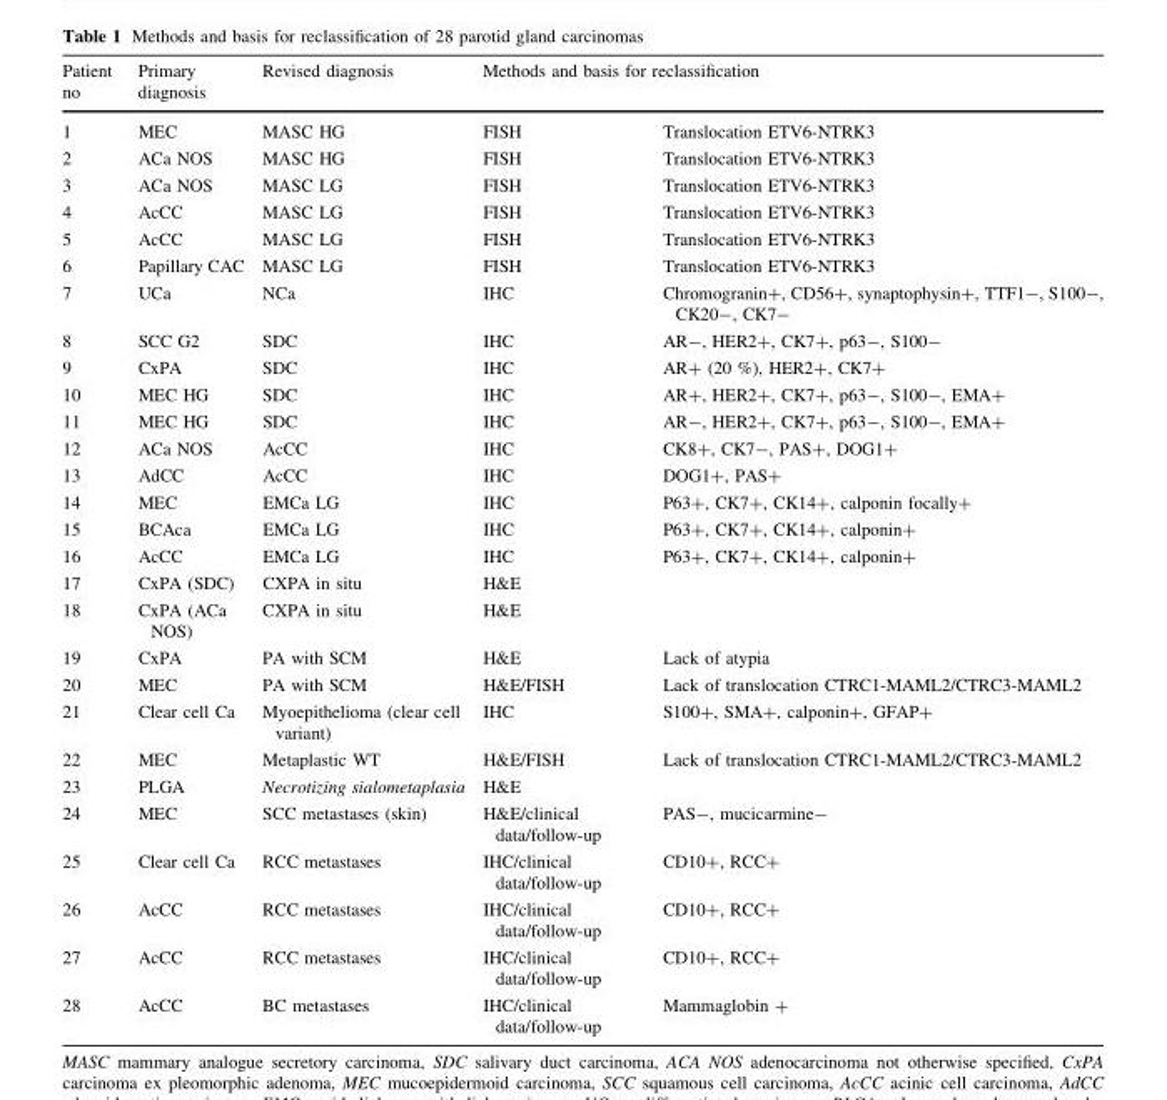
<table><thead><tr><td rowspan="2">Patient no 1</td><td rowspan="2">Primary diagnosis MEC</td><td rowspan="2">Revised diagnosis MASC HG</td><td colspan="2">Methods and basis for reclassification</td></tr><tr><td>FISH</td><td>Translocation ETV6-NTRK3</td></tr></thead><tbody><tr><td>2</td><td>ACa NOS</td><td>MASC HG</td><td>FISH</td><td>Translocation ETV6-NTRK3</td></tr><tr><td>3</td><td>ACa NOS</td><td>MASC LG</td><td>FISH</td><td>Translocation ETV6-NTRK3</td></tr><tr><td>4</td><td>AcCC</td><td>MASC LG</td><td>FISH</td><td>Translocation ETV6-NTRK3</td></tr><tr><td>5</td><td>AcCC</td><td>MASC LG</td><td>FISH</td><td>Translocation ETV6-NTRK3</td></tr><tr><td>6</td><td>Papillary CAC</td><td>MASC LG</td><td>FISH</td><td>Translocation ETV6-NTRK3</td></tr><tr><td>7</td><td>UCa</td><td>NCa</td><td>IHC</td><td>Chromogranin+, CD56+, synaptophysin+, TTF1-, S100-, CK20-, CK7-</td></tr><tr><td>8</td><td>SCC G2</td><td>SDC</td><td>IHC</td><td>AR-, HER2+, CK7+, p63-, S100-</td></tr><tr><td>9</td><td>CxPA</td><td>SDC</td><td>IHC</td><td>AR+ (20 %), HER2+, CK7+</td></tr><tr><td>10</td><td>MEC HG</td><td>SDC</td><td>IHC</td><td>AR+, HER2+, CK7+, p63-, S100-, EMA+</td></tr><tr><td>11</td><td>MEC HG</td><td>SDC</td><td>IHC</td><td>AR-, HER2+, CK7+, p63-, S100-, EMA+</td></tr><tr><td>12</td><td>ACa NOS</td><td>AcCC</td><td>IHC</td><td>CK8+, CK7-, PAS+, DOG1+</td></tr><tr><td>13</td><td>AdCC</td><td>AcCC</td><td>IHC</td><td>DOG1+, PAS+</td></tr><tr><td>14</td><td>MEC</td><td>EMCa LG</td><td>IHC</td><td>P63+, CK7+, CK14+, calponin focally+</td></tr><tr><td>15</td><td>BCAca</td><td>EMCa LG</td><td>IHC</td><td>P63+, CK7+, CK14+, calponin+</td></tr><tr><td>16</td><td>AcCC</td><td>EMCa LG</td><td>IHC</td><td>P63+, CK7+, CK14+, calponin+</td></tr><tr><td>17</td><td>CxPA (SDC)</td><td>CXPA in situ</td><td>H&amp;E</td><td></td></tr><tr><td>18</td><td>CxPA (ACa NOS)</td><td>CXPA in situ</td><td>H&amp;E</td><td></td></tr><tr><td>19</td><td>CxPA</td><td>PA with SCM</td><td>H&amp;E</td><td>Lack of atypia</td></tr><tr><td>20</td><td>MEC</td><td>PA with SCM</td><td>H&amp;E/FISH</td><td>Lack of translocation CTRC1-MAML2/CTRC3-MAML2</td></tr><tr><td>21</td><td>Clear cell Ca</td><td>Myoepithelioma (clear cell variant)</td><td>IHC</td><td>S100+, SMA+, calponin+, GFAP+</td></tr><tr><td>22</td><td>MEC</td><td>Metaplastic WT</td><td>H&amp;E/FISH</td><td>Lack of translocation CTRC1-MAML2/CTRC3-MAML2</td></tr><tr><td>23</td><td>PLGA</td><td>Necrotizing sialometaplasia</td><td>H&amp;E</td><td></td></tr><tr><td>24</td><td>MEC</td><td>SCC metastases (skin)</td><td>H&amp;E/clinical data/follow-up</td><td>PAS-, mucicarmine-</td></tr><tr><td>25</td><td>Clear cell Ca</td><td>RCC metastases</td><td>IHC/clinical data/follow-up</td><td>CD10+, RCC+</td></tr><tr><td>26</td><td>AcCC</td><td>RCC metastases</td><td>IHC/clinical data/follow-up</td><td>CD10+, RCC+</td></tr><tr><td>27</td><td>AcCC</td><td>RCC metastases</td><td>IHC/clinical data/follow-up</td><td>CD10+, RCC+</td></tr><tr><td>28</td><td>AcCC</td><td>BC metastases</td><td>IHC/clinical data/follow-up</td><td>Mammaglobin +</td></tr></tbody></table>